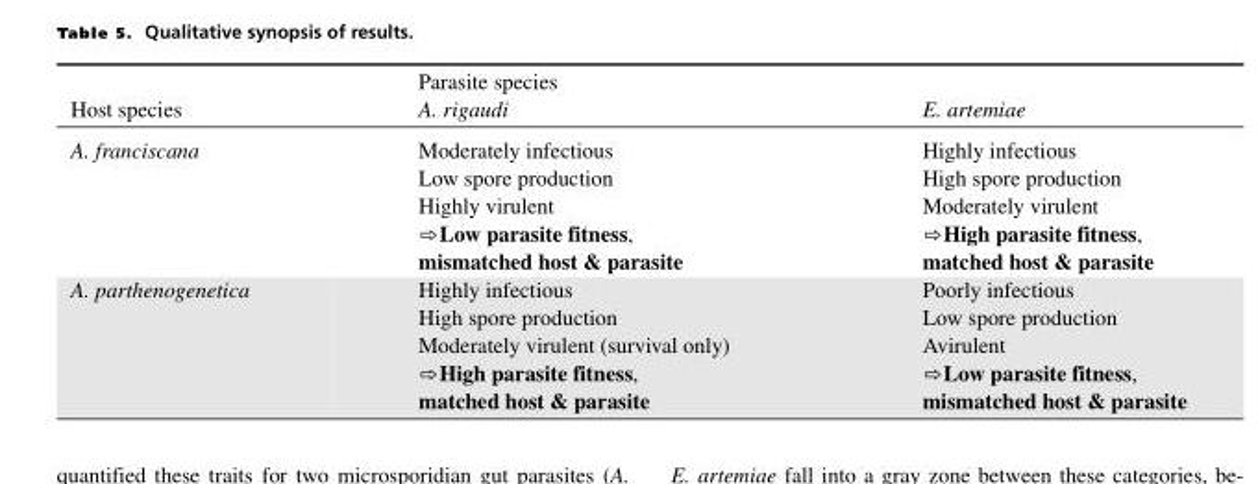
<table><thead><tr><td rowspan="2">Host species</td><td rowspan="2">Parasite species A. rigaudi</td><td rowspan="2">E. artemiae</td></tr><tr></tr></thead><tbody><tr><td>A. franciscana</td><td>Moderately infectious Low spore production Highly virulent ⇨Low parasite fitness, mismatched host &amp; parasite</td><td>Highly infectious High spore production Moderately virulent ⇨High parasite fitness, matched host &amp; parasite</td></tr><tr><td>A. parthenogenetica</td><td>Highly infectious High spore production Moderately virulent (survival only) ⇨High parasite fitness, matched host &amp; parasite</td><td>Poorly infectious Low spore production Avirulent ⇨Low parasite fitness, mismatched host &amp; parasite</td></tr></tbody></table>